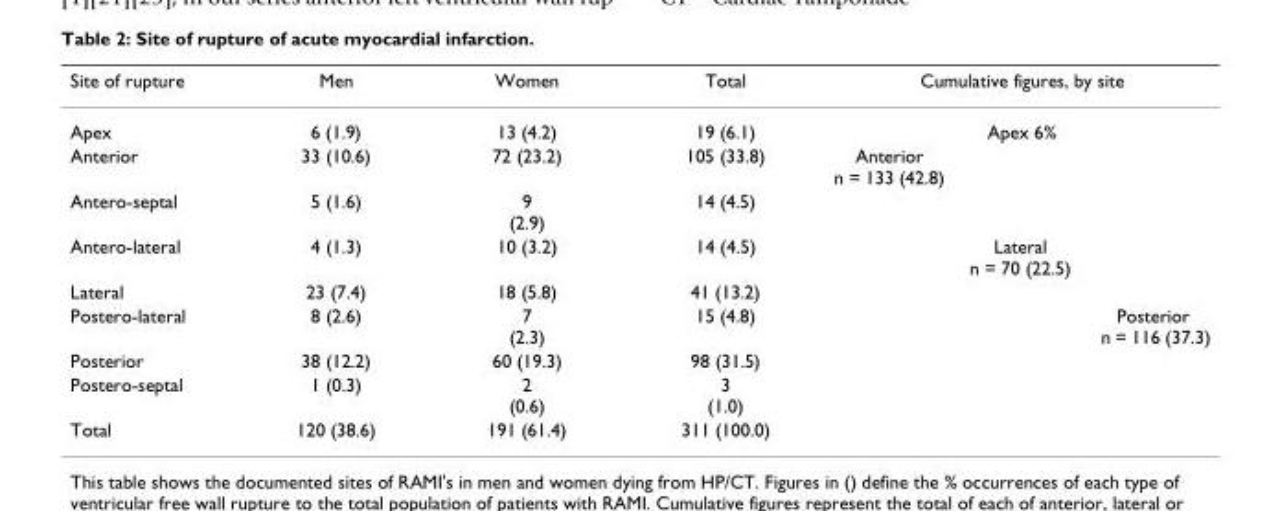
<table><thead><tr><td rowspan="3">Site of rupture Apex Anterior</td><td rowspan="3">Men 6 (1.9) 33 (10.6)</td><td rowspan="3">Women 13 (4.2) 72 (23.2)</td><td rowspan="3">Total 19 (6.1) 105 (33.8)</td><td rowspan="2" colspan="3">Cumulative figures, by site Apex 6%</td></tr><tr></tr><tr><td>Anterior n = 133 (42.8)</td><td></td><td></td></tr></thead><tbody><tr><td>Antero-septal</td><td>5 (1.6)</td><td>9 (2.9)</td><td>14 (4.5)</td><td></td><td></td><td></td></tr><tr><td>Antero-lateral</td><td>4 (1.3)</td><td>10 (3.2)</td><td>14 (4.5)</td><td></td><td>Lateral n = 70 (22.5)</td><td></td></tr><tr><td>Lateral</td><td>23 (7.4)</td><td>18 (5.8)</td><td>41 (13.2)</td><td></td><td></td><td></td></tr><tr><td>Postero-lateral</td><td>8 (2.6)</td><td>7 (2.3)</td><td>15 (4.8)</td><td></td><td></td><td>Posterior n = 116 (37.3)</td></tr><tr><td>Posterior</td><td>38 (12.2)</td><td>60 (19.3)</td><td>98 (31.5)</td><td></td><td></td><td></td></tr><tr><td>Postero-septal</td><td>1 (0.3)</td><td>2 (0.6)</td><td>3 (1.0)</td><td></td><td></td><td></td></tr><tr><td>Total</td><td>120 (38.6)</td><td>191 (61.4)</td><td>311 (100.0)</td><td></td><td></td><td></td></tr></tbody></table>